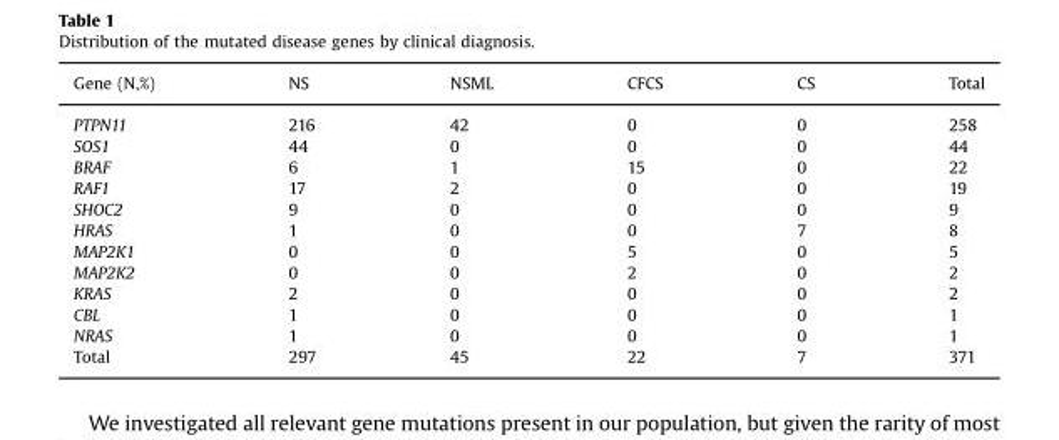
<table><thead><tr><td>Gene (N,%)</td><td>NS</td><td>NSML</td><td>CFCS</td><td>CS</td><td>Total</td></tr></thead><tbody><tr><td>PTPN11</td><td>216</td><td>42</td><td>0</td><td>0</td><td>258</td></tr><tr><td>SOS1</td><td>44</td><td>0</td><td>0</td><td>0</td><td>44</td></tr><tr><td>BRAF</td><td>6</td><td>1</td><td>15</td><td>0</td><td>22</td></tr><tr><td>RAF1</td><td>17</td><td>2</td><td>0</td><td>0</td><td>19</td></tr><tr><td>SHOC2</td><td>9</td><td>0</td><td>0</td><td>0</td><td>9</td></tr><tr><td>HRAS</td><td>1</td><td>0</td><td>0</td><td>7</td><td>8</td></tr><tr><td>MAP2K1</td><td>0</td><td>0</td><td>5</td><td>0</td><td>5</td></tr><tr><td>MAP2K2</td><td>0</td><td>0</td><td>2</td><td>0</td><td>2</td></tr><tr><td>KRAS</td><td>2</td><td>0</td><td>0</td><td>0</td><td>2</td></tr><tr><td>CBL</td><td>1</td><td>0</td><td>0</td><td>0</td><td>1</td></tr><tr><td>NRAS</td><td>1</td><td>0</td><td>0</td><td>0</td><td>1</td></tr><tr><td>Total</td><td>297</td><td>45</td><td>22</td><td>7</td><td>371</td></tr></tbody></table>